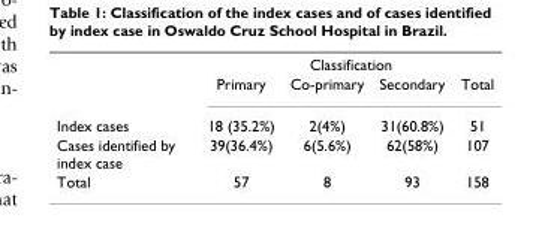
<table><thead><tr><td rowspan="2"></td><td colspan="4">Classification</td></tr><tr><td>Primary</td><td>Co-primary</td><td>Secondary</td><td>Total</td></tr></thead><tbody><tr><td>Index cases</td><td>18 (35.2%)</td><td>2(4%)</td><td>31(60.8%)</td><td>51</td></tr><tr><td>Cases identified by index case</td><td>39(36.4%)</td><td>6(5.6%)</td><td>62(58%)</td><td>107</td></tr><tr><td>Total</td><td>57</td><td>8</td><td>93</td><td>158</td></tr></tbody></table>